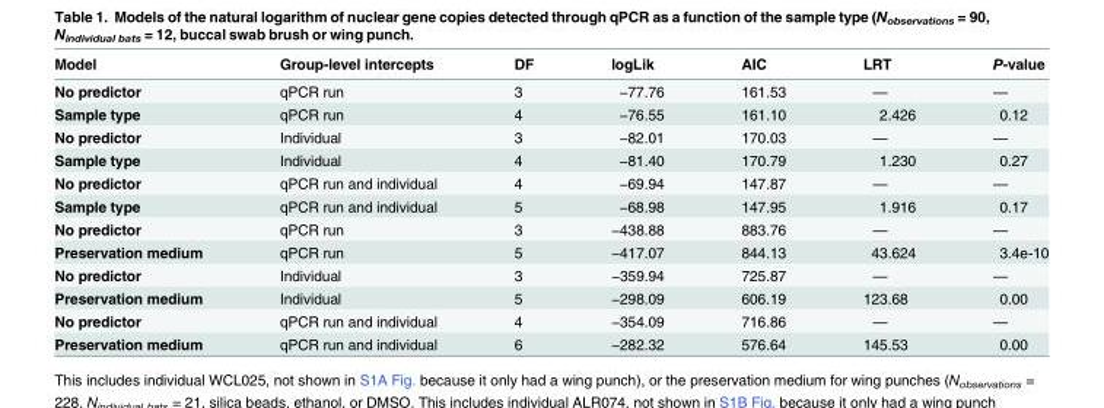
<table><thead><tr><td>Model</td><td>Group-level intercepts</td><td>DF</td><td>logLik</td><td>AIC</td><td>LRT</td><td>P-value</td></tr></thead><tbody><tr><td>No predictor</td><td>qPCR run</td><td>3</td><td>−77.76</td><td>161.53</td><td>—</td><td>—</td></tr><tr><td>Sample type</td><td>qPCR run</td><td>4</td><td>−76.55</td><td>161.10</td><td>2.426</td><td>0.12</td></tr><tr><td>No predictor</td><td>Individual</td><td>3</td><td>−82.01</td><td>170.03</td><td>—</td><td>—</td></tr><tr><td>Sample type</td><td>Individual</td><td>4</td><td>−81.40</td><td>170.79</td><td>1.230</td><td>0.27</td></tr><tr><td>No predictor</td><td>qPCR run and individual</td><td>4</td><td>−69.94</td><td>147.87</td><td>—</td><td>—</td></tr><tr><td>Sample type</td><td>qPCR run and individual</td><td>5</td><td>−68.98</td><td>147.95</td><td>1.916</td><td>0.17</td></tr><tr><td>No predictor</td><td>qPCR run</td><td>3</td><td>−438.88</td><td>883.76</td><td>—</td><td>—</td></tr><tr><td>Preservation medium</td><td>qPCR run</td><td>5</td><td>−417.07</td><td>844.13</td><td>43.624</td><td>3.4e-10</td></tr><tr><td>No predictor</td><td>Individual</td><td>3</td><td>−359.94</td><td>725.87</td><td>—</td><td>—</td></tr><tr><td>Preservation medium</td><td>Individual</td><td>5</td><td>−298.09</td><td>606.19</td><td>123.68</td><td>0.00</td></tr><tr><td>No predictor</td><td>qPCR run and individual</td><td>4</td><td>−354.09</td><td>716.86</td><td>—</td><td>—</td></tr><tr><td>Preservation medium</td><td>qPCR run and individual</td><td>6</td><td>−282.32</td><td>576.64</td><td>145.53</td><td>0.00</td></tr></tbody></table>